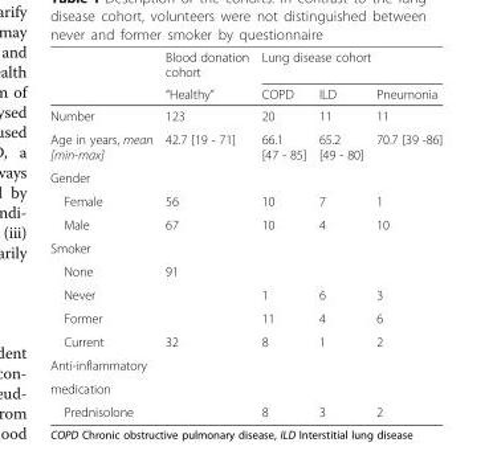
<table><thead><tr><td rowspan="2"></td><td rowspan="2">Blood donation cohort “Healthy”</td><td colspan="3">Lung disease cohort</td></tr><tr><td>COPD</td><td>ILD</td><td>Pneumonia</td></tr></thead><tbody><tr><td>Number</td><td>123</td><td>20</td><td>11</td><td>11</td></tr><tr><td>Age in years, mean [min-max]</td><td>42.7 [19 - 71]</td><td>66.1 [47 - 85]</td><td>65.2 [49 - 80]</td><td>70.7 [39 -86]</td></tr><tr><td colspan="5">Gender</td></tr><tr><td>Female</td><td>56</td><td>10</td><td>7</td><td>1</td></tr><tr><td>Male</td><td>67</td><td>10</td><td>4</td><td>10</td></tr><tr><td colspan="5">Smoker</td></tr><tr><td>None</td><td>91</td><td></td><td></td><td></td></tr><tr><td>Never</td><td></td><td>1</td><td>6</td><td>3</td></tr><tr><td>Former</td><td></td><td>11</td><td>4</td><td>6</td></tr><tr><td>Current</td><td>32</td><td>8</td><td>1</td><td>2</td></tr><tr><td colspan="5">Anti-inflammatory</td></tr><tr><td colspan="5">medication</td></tr><tr><td>Prednisolone</td><td></td><td>8</td><td>3</td><td>2</td></tr></tbody></table>